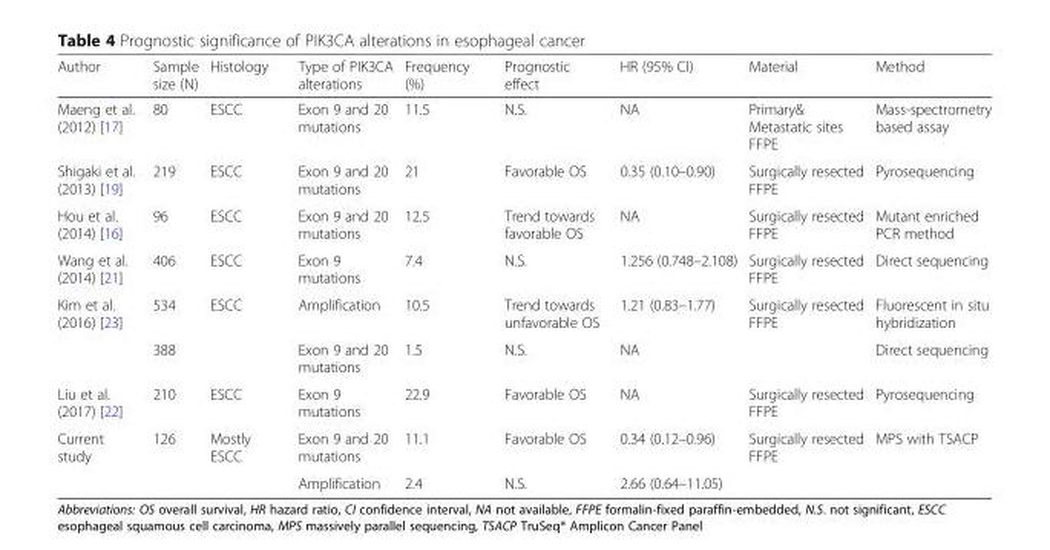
<table><thead><tr><td>Author</td><td>Sample size (N)</td><td>Histology</td><td>Type of PIK3CA alterations</td><td>Frequency (%)</td><td>Prognostic effect</td><td>HR (95% CI)</td><td>Material</td><td>Method</td></tr></thead><tbody><tr><td>Maeng et al. (2012) [17]</td><td>80</td><td>ESCC</td><td>Exon 9 and 20 mutations</td><td>11.5</td><td>N.S.</td><td>NA</td><td>Primary&amp; Metastatic sites FFPE</td><td>Mass-spectrometry based assay</td></tr><tr><td>Shigaki et al. (2013) [19]</td><td>219</td><td>ESCC</td><td>Exon 9 and 20 mutations</td><td>21</td><td>Favorable OS</td><td>0.35 (0.10–0.90)</td><td>Surgically resected FFPE</td><td>Pyrosequencing</td></tr><tr><td>Hou et al. (2014) [16]</td><td>96</td><td>ESCC</td><td>Exon 9 and 20 mutations</td><td>12.5</td><td>Trend towards favorable OS</td><td>NA</td><td>Surgically resected FFPE</td><td>Mutant enriched PCR method</td></tr><tr><td>Wang et al. (2014) [21]</td><td>406</td><td>ESCC</td><td>Exon 9 mutations</td><td>7.4</td><td>N.S.</td><td>1.256 (0.748–2.108)</td><td>Surgically resected FFPE</td><td>Direct sequencing</td></tr><tr><td rowspan="2">Kim et al. (2016) [23]</td><td>534</td><td rowspan="2">ESCC</td><td>Amplification</td><td>10.5</td><td>Trend towards unfavorable OS</td><td>1.21 (0.83–1.77)</td><td rowspan="2">Surgically resected FFPE</td><td>Fluorescent in situ hybridization</td></tr><tr><td>388</td><td>Exon 9 and 20 mutations</td><td>1.5</td><td>N.S.</td><td>NA</td><td>Direct sequencing</td></tr><tr><td>Liu et al. (2017) [22]</td><td>210</td><td>ESCC</td><td>Exon 9 mutations</td><td>22.9</td><td>Favorable OS</td><td>NA</td><td>Surgically resected FFPE</td><td>Pyrosequencing</td></tr><tr><td rowspan="2">Current study</td><td rowspan="2">126</td><td rowspan="2">Mostly ESCC</td><td>Exon 9 and 20 mutations</td><td>11.1</td><td>Favorable OS</td><td>0.34 (0.12–0.96)</td><td rowspan="2">Surgically resected FFPE</td><td rowspan="2">MPS with TSACP</td></tr><tr><td>Amplification</td><td>2.4</td><td>N.S.</td><td>2.66 (0.64–11.05)</td></tr></tbody></table>